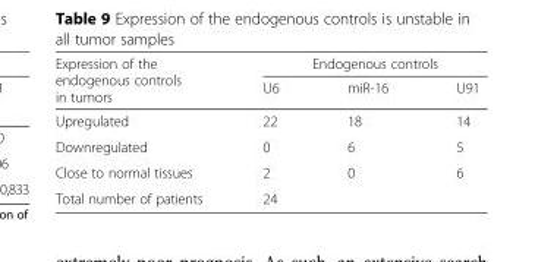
<table><thead><tr><td rowspan="2">Expression of the endogenous controls in tumors</td><td colspan="3">Endogenous controls</td></tr><tr><td>U6</td><td>miR-16</td><td>U91</td></tr></thead><tbody><tr><td>Upregulated</td><td>22</td><td>18</td><td>14</td></tr><tr><td>Downregulated</td><td>0</td><td>6</td><td>5</td></tr><tr><td>Close to normal tissues</td><td>2</td><td>0</td><td>6</td></tr><tr><td>Total number of patients</td><td colspan="3">24</td></tr></tbody></table>